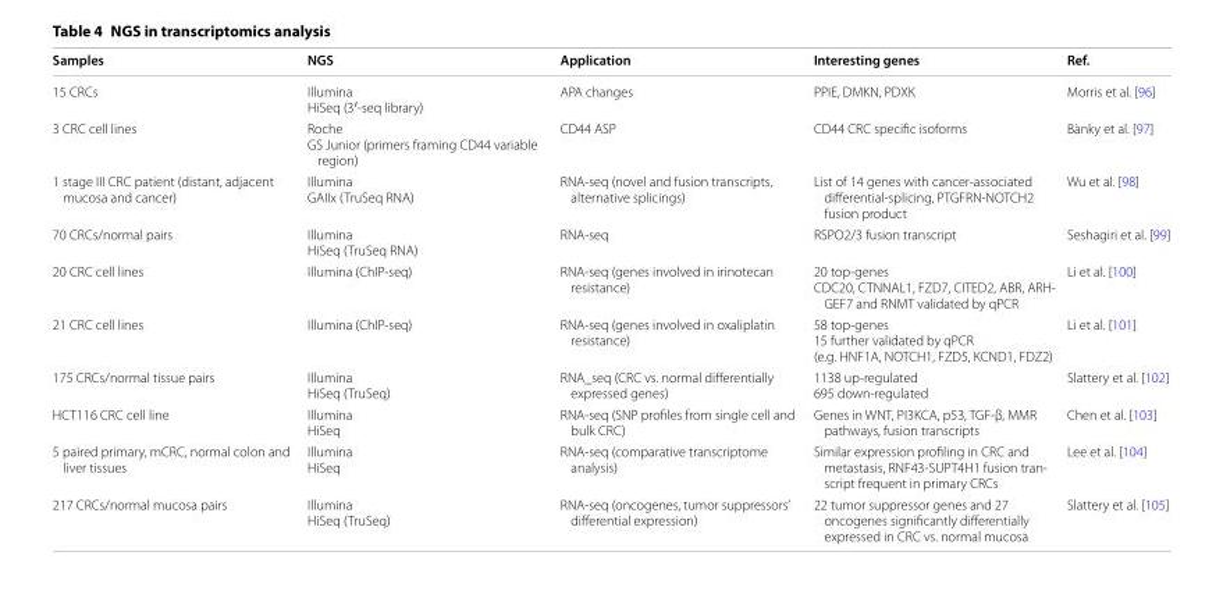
<table><thead><tr><td>Samples</td><td>NGS</td><td>Application</td><td>Interesting genes</td><td>Ref.</td></tr></thead><tbody><tr><td>15 CRCs</td><td>Illumina HiSeq (3′-seq library)</td><td>APA changes</td><td>PPIE, DMKN, PDXK</td><td>Morris et al. [96]</td></tr><tr><td>3 CRC cell lines</td><td>Roche GS Junior (primers framing CD44 variable region)</td><td>CD44 ASP</td><td>CD44 CRC specific isoforms</td><td>Bànky et al. [97]</td></tr><tr><td>1 stage III CRC patient (distant, adjacent mucosa and cancer)</td><td>Illumina GAIIx (TruSeq RNA)</td><td>RNA-seq (novel and fusion transcripts, alternative splicings)</td><td>List of 14 genes with cancer-associated differential-splicing, PTGFRN-NOTCH2 fusion product</td><td>Wu et al. [98]</td></tr><tr><td>70 CRCs/normal pairs</td><td>Illumina HiSeq (TruSeq RNA)</td><td>RNA-seq</td><td>RSPO2/3 fusion transcript</td><td>Seshagiri et al. [99]</td></tr><tr><td>20 CRC cell lines</td><td>Illumina (ChIP-seq)</td><td>RNA-seq (genes involved in irinotecan resistance)</td><td>20 top-genes CDC20, CTNNAL1, FZD7, CITED2, ABR, ARH- GEF7 and RNMT validated by qPCR</td><td>Li et al. [100]</td></tr><tr><td>21 CRC cell lines</td><td>Illumina (ChIP-seq)</td><td>RNA-seq (genes involved in oxaliplatin resistance)</td><td>58 top-genes 15 further validated by qPCR (e.g. HNF1A, NOTCH1, FZD5, KCND1, FDZ2)</td><td>Li et al. [101]</td></tr><tr><td>175 CRCs/normal tissue pairs</td><td>Illumina HiSeq (TruSeq)</td><td>RNA_seq (CRC vs. normal differentially expressed genes)</td><td>1138 up-regulated 695 down-regulated</td><td>Slattery et al. [102]</td></tr><tr><td>HCT116 CRC cell line</td><td>Illumina HiSeq</td><td>RNA-seq (SNP profiles from single cell and bulk CRC)</td><td>Genes in WNT, PI3KCA, p53, TGF-β, MMR pathways, fusion transcripts</td><td>Chen et al. [103]</td></tr><tr><td>5 paired primary, mCRC, normal colon and liver tissues</td><td>Illumina HiSeq</td><td>RNA-seq (comparative transcriptome analysis)</td><td>Similar expression profiling in CRC and metastasis, RNF43-SUPT4H1 fusion tran- script frequent in primary CRCs</td><td>Lee et al. [104]</td></tr><tr><td>217 CRCs/normal mucosa pairs</td><td>Illumina HiSeq (TruSeq)</td><td>RNA-seq (oncogenes, tumor suppressors’ differential expression)</td><td>22 tumor suppressor genes and 27 oncogenes significantly differentially expressed in CRC vs. normal mucosa</td><td>Slattery et al. [105]</td></tr></tbody></table>